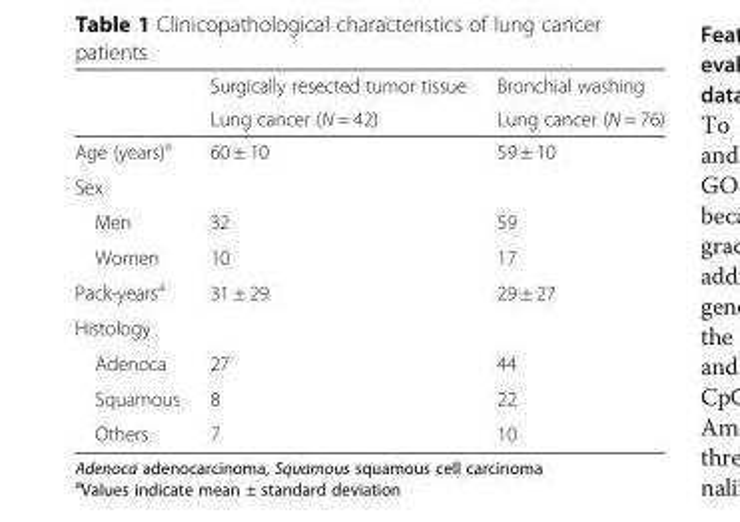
<table><thead><tr><td rowspan="2"></td><td rowspan="2">Surgically resected tumor tissue Lung cancer (N = 42)</td><td rowspan="2">Bronchial washing Lung cancer (N = 76)</td></tr><tr></tr></thead><tbody><tr><td>Age (years)<sup>a</sup></td><td>60 ± 10</td><td>59 ± 10</td></tr><tr><td colspan="3">Sex</td></tr><tr><td>Men</td><td>32</td><td>59</td></tr><tr><td>Women</td><td>10</td><td>17</td></tr><tr><td>Pack-years<sup>a</sup></td><td>31 ± 29</td><td>29 ± 27</td></tr><tr><td colspan="3">Histology</td></tr><tr><td>Adenoca</td><td>27</td><td>44</td></tr><tr><td>Squamous</td><td>8</td><td>22</td></tr><tr><td>Others</td><td>7</td><td>10</td></tr></tbody></table>